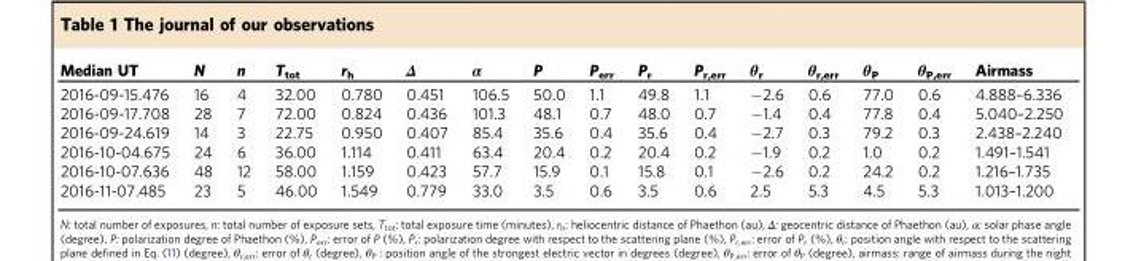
<table><thead><tr><td>Median UT</td><td>N</td><td>n</td><td>T<sub>tot</sub></td><td>r<sub>h</sub></td><td>Δ</td><td>α</td><td>P</td><td>P<sub>err</sub></td><td>P<sub>r</sub></td><td>P<sub>r,err</sub></td><td>θ<sub>r</sub></td><td>θ<sub>r,err</sub></td><td>θ<sub>P</sub></td><td>θ<sub>P,err</sub></td><td>Airmass</td></tr></thead><tbody><tr><td>2016-09-15.476</td><td>16</td><td>4</td><td>32.00</td><td>0.780</td><td>0.451</td><td>106.5</td><td>50.0</td><td>1.1</td><td>49.8</td><td>1.1</td><td>−2.6</td><td>0.6</td><td>77.0</td><td>0.6</td><td>4.888–6.336</td></tr><tr><td>2016-09-17.708</td><td>28</td><td>7</td><td>72.00</td><td>0.824</td><td>0.436</td><td>101.3</td><td>48.1</td><td>0.7</td><td>48.0</td><td>0.7</td><td>−1.4</td><td>0.4</td><td>77.8</td><td>0.4</td><td>5.040–2.250</td></tr><tr><td>2016-09-24.619</td><td>14</td><td>3</td><td>22.75</td><td>0.950</td><td>0.407</td><td>85.4</td><td>35.6</td><td>0.4</td><td>35.6</td><td>0.4</td><td>−2.7</td><td>0.3</td><td>79.2</td><td>0.3</td><td>2.438–2.240</td></tr><tr><td>2016-10-04.675</td><td>24</td><td>6</td><td>36.00</td><td>1.114</td><td>0.411</td><td>63.4</td><td>20.4</td><td>0.2</td><td>20.4</td><td>0.2</td><td>−1.9</td><td>0.2</td><td>1.0</td><td>0.2</td><td>1.491–1.541</td></tr><tr><td>2016-10-07.636</td><td>48</td><td>12</td><td>58.00</td><td>1.159</td><td>0.423</td><td>57.7</td><td>15.9</td><td>0.1</td><td>15.8</td><td>0.1</td><td>−2.6</td><td>0.2</td><td>24.2</td><td>0.2</td><td>1.216–1.735</td></tr><tr><td>2016-11-07.485</td><td>23</td><td>5</td><td>46.00</td><td>1.549</td><td>0.779</td><td>33.0</td><td>3.5</td><td>0.6</td><td>3.5</td><td>0.6</td><td>2.5</td><td>5.3</td><td>4.5</td><td>5.3</td><td>1.013–1.200</td></tr></tbody></table>